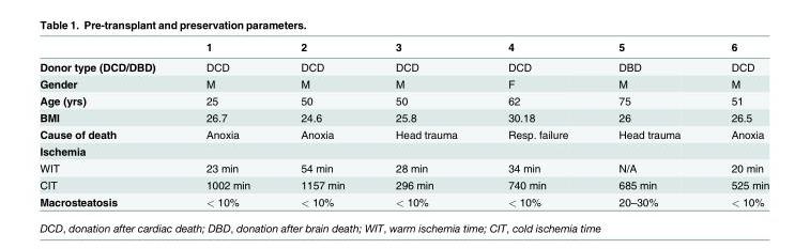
<table><thead><tr><td></td><td>1</td><td>2</td><td>3</td><td>4</td><td>5</td><td>6</td></tr></thead><tbody><tr><td>Donor type (DCD/DBD)</td><td>DCD</td><td>DCD</td><td>DCD</td><td>DCD</td><td>DBD</td><td>DCD</td></tr><tr><td>Gender</td><td>M</td><td>M</td><td>M</td><td>F</td><td>M</td><td>M</td></tr><tr><td>Age (yrs)</td><td>25</td><td>50</td><td>50</td><td>62</td><td>75</td><td>51</td></tr><tr><td>BMI</td><td>26.7</td><td>24.6</td><td>25.8</td><td>30.18</td><td>26</td><td>26.5</td></tr><tr><td>Cause of death</td><td>Anoxia</td><td>Anoxia</td><td>Head trauma</td><td>Resp. failure</td><td>Head trauma</td><td>Anoxia</td></tr><tr><td colspan="7">Ischemia</td></tr><tr><td>WIT</td><td>23 min</td><td>54 min</td><td>28 min</td><td>34 min</td><td>N/A</td><td>20 min</td></tr><tr><td>CIT</td><td>1002 min</td><td>1157 min</td><td>296 min</td><td>740 min</td><td>685 min</td><td>525 min</td></tr><tr><td>Macrosteatosis</td><td>&lt; 10%</td><td>&lt; 10%</td><td>&lt; 10%</td><td>&lt; 10%</td><td>20–30%</td><td>&lt; 10%</td></tr></tbody></table>